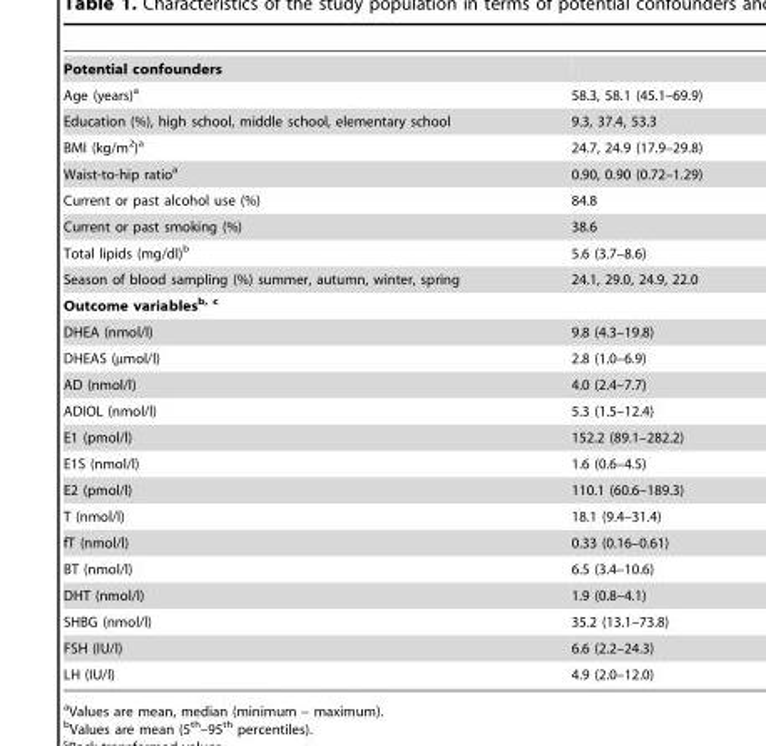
<table><tbody><tr><td colspan="2">Potential confounders</td></tr><tr><td>Age (years)<sup>a</sup></td><td>58.3, 58.1 (45.1–69.9)</td></tr><tr><td>Education (%), high school, middle school, elementary school</td><td>9.3, 37.4, 53.3</td></tr><tr><td>BMI (kg/m<sup>2</sup>)<sup>a</sup></td><td>24.7, 24.9 (17.9–29.8)</td></tr><tr><td>Waist-to-hip ratio<sup>a</sup></td><td>0.90, 0.90 (0.72–1.29)</td></tr><tr><td>Current or past alcohol use (%)</td><td>84.8</td></tr><tr><td>Current or past smoking (%)</td><td>38.6</td></tr><tr><td>Total lipids (mg/dl)<sup>b</sup></td><td>5.6 (3.7–8.6)</td></tr><tr><td>Season of blood sampling (%) summer, autumn, winter, spring</td><td>24.1, 29.0, 24.9, 22.0</td></tr><tr><td colspan="2">Outcome variablesb<sup>,</sup> c</td></tr><tr><td>DHEA (nmol/l)</td><td>9.8 (4.3–19.8)</td></tr><tr><td>DHEAS (µmol/l)</td><td>2.8 (1.0–6.9)</td></tr><tr><td>AD (nmol/l)</td><td>4.0 (2.4–7.7)</td></tr><tr><td>ADIOL (nmol/l)</td><td>5.3 (1.5–12.4)</td></tr><tr><td>E1 (pmol/l)</td><td>152.2 (89.1–282.2)</td></tr><tr><td>E1S (nmol/l)</td><td>1.6 (0.6–4.5)</td></tr><tr><td>E2 (pmol/l)</td><td>110.1 (60.6–189.3)</td></tr><tr><td>T (nmol/l)</td><td>18.1 (9.4–31.4)</td></tr><tr><td>fT (nmol/l)</td><td>0.33 (0.16–0.61)</td></tr><tr><td>BT (nmol/l)</td><td>6.5 (3.4–10.6)</td></tr><tr><td>DHT (nmol/l)</td><td>1.9 (0.8–4.1)</td></tr><tr><td>SHBG (nmol/l)</td><td>35.2 (13.1–73.8)</td></tr><tr><td>FSH (IU/l)</td><td>6.6 (2.2–24.3)</td></tr><tr><td>LH (IU/l)</td><td>4.9 (2.0–12.0)</td></tr></tbody></table>